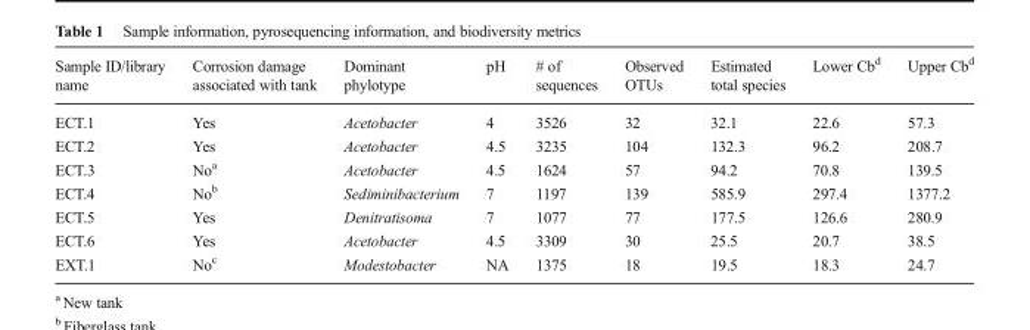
<table><thead><tr><td>Sample ID/library name</td><td>Corrosion damage associated with tank</td><td>Dominant phylotype</td><td>pH</td><td># of sequences</td><td>Observed OTUs</td><td>Estimated total species</td><td>Lower Cb<sup>d</sup></td><td>Upper Cb<sup>d</sup></td></tr></thead><tbody><tr><td>ECT.1</td><td>Yes</td><td>Acetobacter</td><td>4</td><td>3526</td><td>32</td><td>32.1</td><td>22.6</td><td>57.3</td></tr><tr><td>ECT.2</td><td>Yes</td><td>Acetobacter</td><td>4.5</td><td>3235</td><td>104</td><td>132.3</td><td>96.2</td><td>208.7</td></tr><tr><td>ECT.3</td><td>No<sup>a</sup></td><td>Acetobacter</td><td>4.5</td><td>1624</td><td>57</td><td>94.2</td><td>70.8</td><td>139.5</td></tr><tr><td>ECT.4</td><td>No<sup>b</sup></td><td>Sediminibacterium</td><td>7</td><td>1197</td><td>139</td><td>585.9</td><td>297.4</td><td>1377.2</td></tr><tr><td>ECT.5</td><td>Yes</td><td>Denitratisoma</td><td>7</td><td>1077</td><td>77</td><td>177.5</td><td>126.6</td><td>280.9</td></tr><tr><td>ECT.6</td><td>Yes</td><td>Acetobacter</td><td>4.5</td><td>3309</td><td>30</td><td>25.5</td><td>20.7</td><td>38.5</td></tr><tr><td>EXT.1</td><td>No<sup>c</sup></td><td>Modestobacter</td><td>NA</td><td>1375</td><td>18</td><td>19.5</td><td>18.3</td><td>24.7</td></tr></tbody></table>